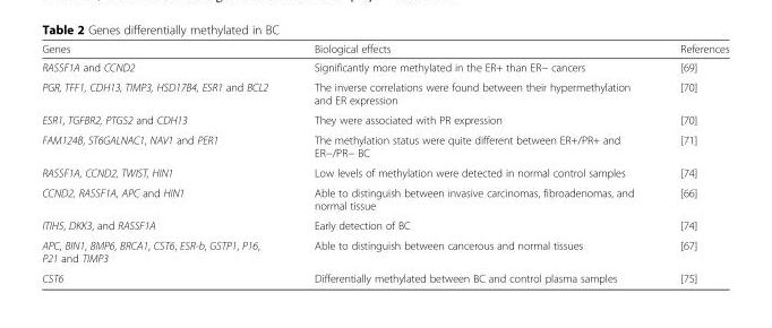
<table><thead><tr><td>Genes</td><td>Biological effects</td><td>References</td></tr></thead><tbody><tr><td>RASSF1A and CCND2</td><td>Significantly more methylated in the ER+ than ER− cancers</td><td>[69]</td></tr><tr><td>PGR, TFF1, CDH13, TIMP3, HSD17B4, ESR1 and BCL2</td><td>The inverse correlations were found between their hypermethylation and ER expression</td><td>[70]</td></tr><tr><td>ESR1, TGFBR2, PTGS2 and CDH13</td><td>They were associated with PR expression</td><td>[70]</td></tr><tr><td>FAM124B, ST6GALNAC1, NAV1 and PER1</td><td>The methylation status were quite different between ER+/PR+ and ER−/PR− BC</td><td>[71]</td></tr><tr><td>RASSF1A, CCND2, TWIST, HIN1</td><td>Low levels of methylation were detected in normal control samples</td><td>[74]</td></tr><tr><td>CCND2, RASSF1A, APC and HIN1</td><td>Able to distinguish between invasive carcinomas, fibroadenomas, and normal tissue</td><td>[66]</td></tr><tr><td>ITIH5, DKK3, and RASSF1A</td><td>Early detection of BC</td><td>[74]</td></tr><tr><td>APC, BIN1, BMP6, BRCA1, CST6, ESR-b, GSTP1, P16, P21 and TIMP3</td><td>Able to distinguish between cancerous and normal tissues</td><td>[67]</td></tr><tr><td>CST6</td><td>Differentially methylated between BC and control plasma samples</td><td>[75]</td></tr></tbody></table>